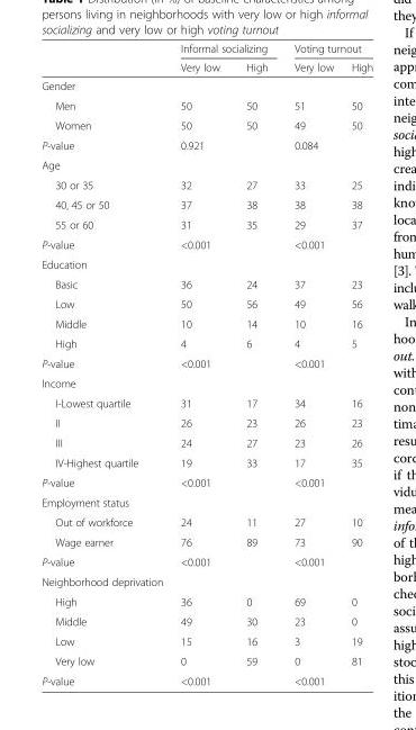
<table><thead><tr><td rowspan="2"></td><td colspan="2">Informal socializing</td><td colspan="2">Voting turnout</td></tr><tr><td>Very low</td><td>High</td><td>Very low</td><td>High</td></tr></thead><tbody><tr><td colspan="5">Gender</td></tr><tr><td>Men</td><td>50</td><td>50</td><td>51</td><td>50</td></tr><tr><td>Women</td><td>50</td><td>50</td><td>49</td><td>50</td></tr><tr><td>P-value</td><td colspan="2">0.921</td><td colspan="2">0.084</td></tr><tr><td colspan="5">Age</td></tr><tr><td>30 or 35</td><td>32</td><td>27</td><td>33</td><td>25</td></tr><tr><td>40, 45 or 50</td><td>37</td><td>38</td><td>38</td><td>38</td></tr><tr><td>55 or 60</td><td>31</td><td>35</td><td>29</td><td>37</td></tr><tr><td>P-value</td><td colspan="2">&lt;0.001</td><td colspan="2">&lt;0.001</td></tr><tr><td colspan="5">Education</td></tr><tr><td>Basic</td><td>36</td><td>24</td><td>37</td><td>23</td></tr><tr><td>Low</td><td>50</td><td>56</td><td>49</td><td>56</td></tr><tr><td>Middle</td><td>10</td><td>14</td><td>10</td><td>16</td></tr><tr><td>High</td><td>4</td><td>6</td><td>4</td><td>5</td></tr><tr><td>P-value</td><td colspan="2">&lt;0.001</td><td colspan="2">&lt;0.001</td></tr><tr><td colspan="5">Income</td></tr><tr><td>I-Lowest quartile</td><td>31</td><td>17</td><td>34</td><td>16</td></tr><tr><td>II</td><td>26</td><td>23</td><td>26</td><td>23</td></tr><tr><td>III</td><td>24</td><td>27</td><td>23</td><td>26</td></tr><tr><td>IV-Highest quartile</td><td>19</td><td>33</td><td>17</td><td>35</td></tr><tr><td>P-value</td><td colspan="2">&lt;0.001</td><td colspan="2">&lt;0.001</td></tr><tr><td colspan="5">Employment status</td></tr><tr><td>Out of workforce</td><td>24</td><td>11</td><td>27</td><td>10</td></tr><tr><td>Wage earner</td><td>76</td><td>89</td><td>73</td><td>90</td></tr><tr><td>P-value</td><td colspan="2">&lt;0.001</td><td colspan="2">&lt;0.001</td></tr><tr><td colspan="5">Neighborhood deprivation</td></tr><tr><td>High</td><td>36</td><td>0</td><td>69</td><td>0</td></tr><tr><td>Middle</td><td>49</td><td>30</td><td>23</td><td>0</td></tr><tr><td>Low</td><td>15</td><td>16</td><td>3</td><td>19</td></tr><tr><td>Very low</td><td>0</td><td>59</td><td>0</td><td>81</td></tr><tr><td>P-value</td><td colspan="2">&lt;0.001</td><td colspan="2">&lt;0.001</td></tr></tbody></table>